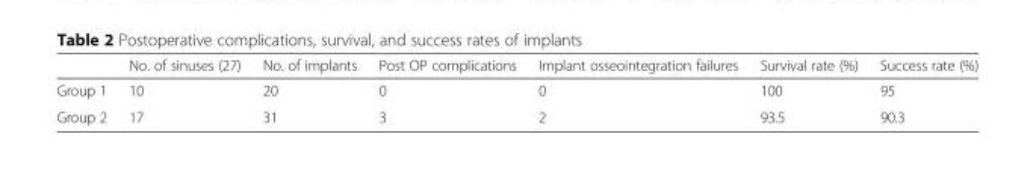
<table><thead><tr><td></td><td>No. of sinuses (27)</td><td>No. of implants</td><td>Post OP complications</td><td>Implant osseointegration failures</td><td>Survival rate (%)</td><td>Success rate (%)</td></tr></thead><tbody><tr><td>Group 1</td><td>10</td><td>20</td><td>0</td><td>0</td><td>100</td><td>95</td></tr><tr><td>Group 2</td><td>17</td><td>31</td><td>3</td><td>2</td><td>93.5</td><td>90.3</td></tr></tbody></table>